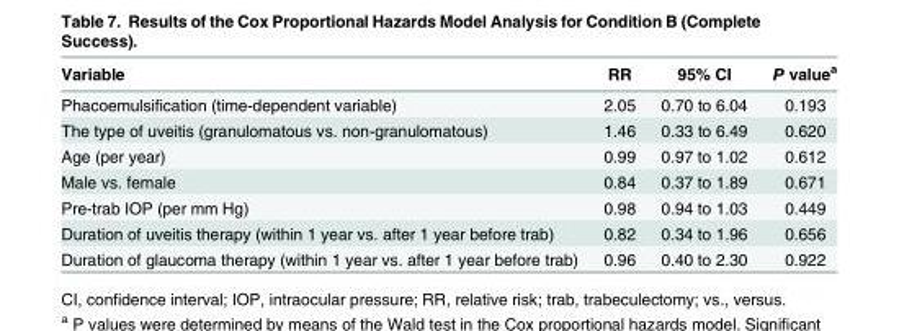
<table><thead><tr><td>Variable</td><td>RR</td><td>95% CI</td><td>P value<sup>a</sup></td></tr></thead><tbody><tr><td>Phacoemulsification (time-dependent variable)</td><td>2.05</td><td>0.70 to 6.04</td><td>0.193</td></tr><tr><td>The type of uveitis (granulomatous vs. non-granulomatous)</td><td>1.46</td><td>0.33 to 6.49</td><td>0.620</td></tr><tr><td>Age (per year)</td><td>0.99</td><td>0.97 to 1.02</td><td>0.612</td></tr><tr><td>Male vs. female</td><td>0.84</td><td>0.37 to 1.89</td><td>0.671</td></tr><tr><td>Pre-trab IOP (per mm Hg)</td><td>0.98</td><td>0.94 to 1.03</td><td>0.449</td></tr><tr><td>Duration of uveitis therapy (within 1 year vs. after 1 year before trab)</td><td>0.82</td><td>0.34 to 1.96</td><td>0.656</td></tr><tr><td>Duration of glaucoma therapy (within 1 year vs. after 1 year before trab)</td><td>0.96</td><td>0.40 to 2.30</td><td>0.922</td></tr></tbody></table>